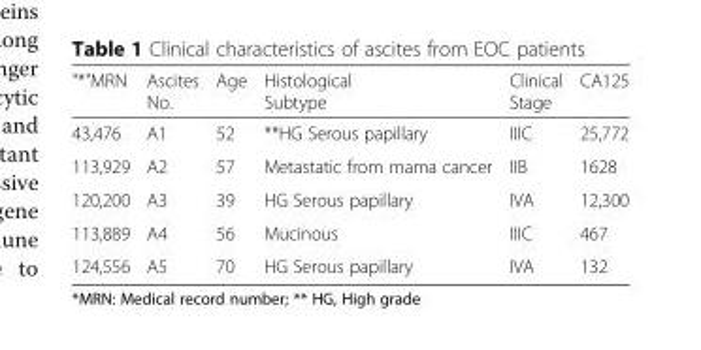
<table><thead><tr><td>&quot;*&quot;MRN</td><td>Ascites No.</td><td>Age</td><td>Histological Subtype</td><td>Clinical Stage</td><td>CA125</td></tr></thead><tbody><tr><td>43,476</td><td>A1</td><td>52</td><td>**HG Serous papillary</td><td>IIIC</td><td>25,772</td></tr><tr><td>113,929</td><td>A2</td><td>57</td><td>Metastatic from mama cancer</td><td>IIB</td><td>1628</td></tr><tr><td>120,200</td><td>A3</td><td>39</td><td>HG Serous papillary</td><td>IVA</td><td>12,300</td></tr><tr><td>113,889</td><td>A4</td><td>56</td><td>Mucinous</td><td>IIIC</td><td>467</td></tr><tr><td>124,556</td><td>A5</td><td>70</td><td>HG Serous papillary</td><td>IVA</td><td>132</td></tr></tbody></table>